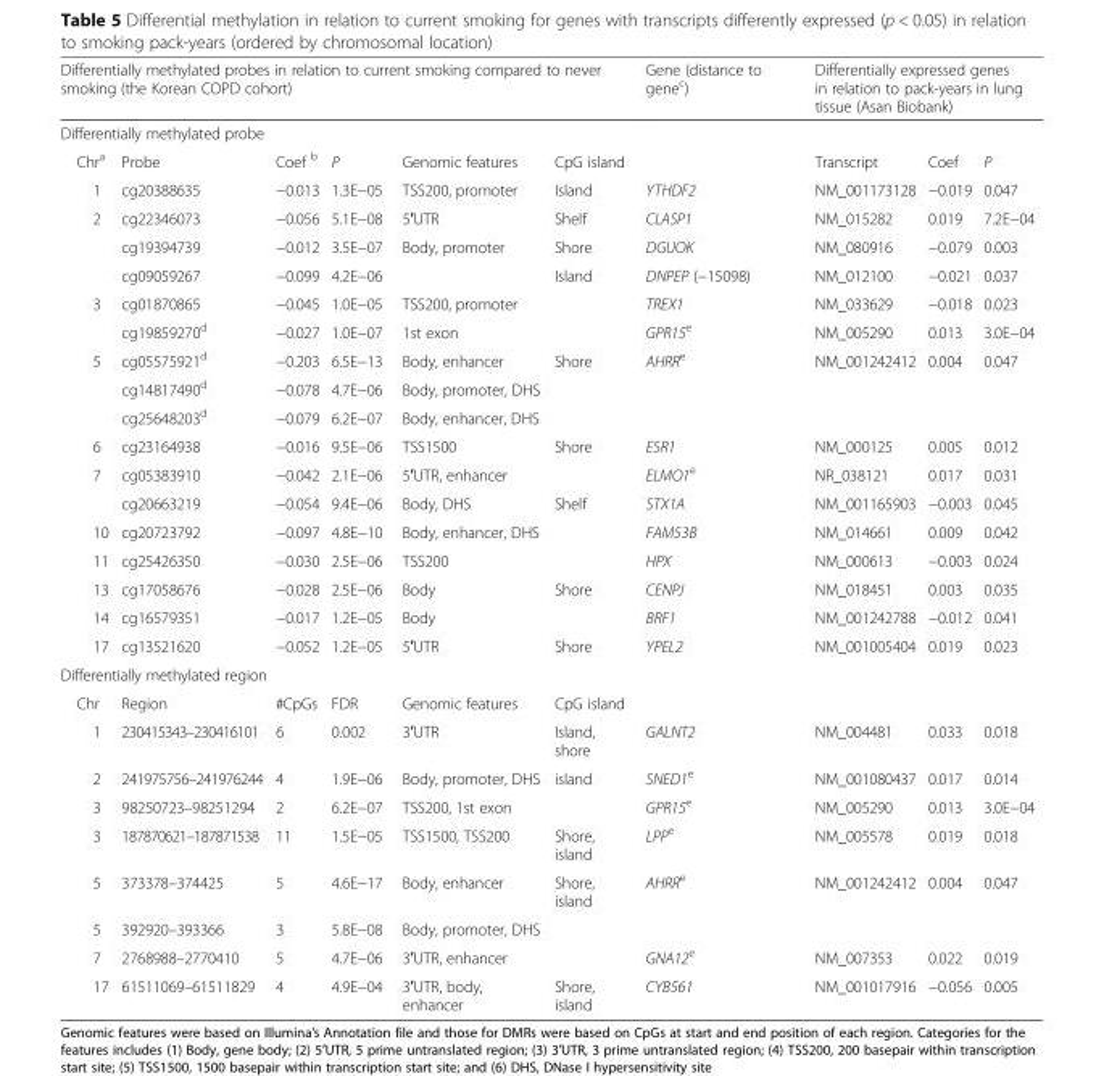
<table><thead><tr><td rowspan="2" colspan="6">Differentially methylated probes in relation to current smoking compared to never smoking (the Korean COPD cohort) Differentially methylated probe</td><td rowspan="3">Gene (distance to gene<sup>c</sup>)</td><td rowspan="2" colspan="3">Differentially expressed genes in relation to pack-years in lung tissue (Asan Biobank)</td></tr><tr></tr><tr><td>Chr<sup>a</sup></td><td>Probe</td><td>Coef <sup>b</sup></td><td>P</td><td>Genomic features</td><td>CpG island</td><td>Transcript</td><td>Coef</td><td>P</td></tr></thead><tbody><tr><td>1</td><td>cg20388635</td><td>−0.013</td><td>1.3E−05</td><td>TSS200, promoter</td><td>Island</td><td>YTHDF2</td><td>NM_001173128</td><td>−0.019</td><td>0.047</td></tr><tr><td rowspan="3">2</td><td>cg22346073</td><td>−0.056</td><td>5.1E−08</td><td>5′UTR</td><td>Shelf</td><td>CLASP1</td><td>NM_015282</td><td>0.019</td><td>7.2E−04</td></tr><tr><td>cg19394739</td><td>−0.012</td><td>3.5E−07</td><td>Body, promoter</td><td>Shore</td><td>DGUOK</td><td>NM_080916</td><td>−0.079</td><td>0.003</td></tr><tr><td>cg09059267</td><td>−0.099</td><td>4.2E−06</td><td></td><td>Island</td><td>DNPEP (−15098)</td><td>NM_012100</td><td>−0.021</td><td>0.037</td></tr><tr><td rowspan="2">3</td><td>cg01870865</td><td>−0.045</td><td>1.0E−05</td><td>TSS200, promoter</td><td></td><td>TREX1</td><td>NM_033629</td><td>−0.018</td><td>0.023</td></tr><tr><td>cg19859270<sup>d</sup></td><td>−0.027</td><td>1.0E−07</td><td>1st exon</td><td></td><td>GPR15<sup>e</sup></td><td>NM_005290</td><td>0.013</td><td>3.0E−04</td></tr><tr><td rowspan="3">5</td><td>cg05575921<sup>d</sup></td><td>−0.203</td><td>6.5E−13</td><td>Body, enhancer</td><td>Shore</td><td rowspan="3">AHRR<sup>e</sup></td><td rowspan="3">NM_001242412</td><td rowspan="3">0.004</td><td rowspan="3">0.047</td></tr><tr><td>cg14817490<sup>d</sup></td><td>−0.078</td><td>4.7E−06</td><td>Body, promoter, DHS</td><td></td></tr><tr><td>cg25648203<sup>d</sup></td><td>−0.079</td><td>6.2E−07</td><td>Body, enhancer, DHS</td><td></td></tr><tr><td>6</td><td>cg23164938</td><td>−0.016</td><td>9.5E−06</td><td>TSS1500</td><td>Shore</td><td>ESR1</td><td>NM_000125</td><td>0.005</td><td>0.012</td></tr><tr><td rowspan="2">7</td><td>cg05383910</td><td>−0.042</td><td>2.1E−06</td><td>5′UTR, enhancer</td><td></td><td>ELMO1<sup>e</sup></td><td>NR_038121</td><td>0.017</td><td>0.031</td></tr><tr><td>cg20663219</td><td>−0.054</td><td>9.4E−06</td><td>Body, DHS</td><td>Shelf</td><td>STX1A</td><td>NM_001165903</td><td>−0.003</td><td>0.045</td></tr><tr><td>10</td><td>cg20723792</td><td>−0.097</td><td>4.8E−10</td><td>Body, enhancer, DHS</td><td></td><td>FAM53B</td><td>NM_014661</td><td>0.009</td><td>0.042</td></tr><tr><td>11</td><td>cg25426350</td><td>−0.030</td><td>2.5E−06</td><td>TSS200</td><td></td><td>HPX</td><td>NM_000613</td><td>−0.003</td><td>0.024</td></tr><tr><td>13</td><td>cg17058676</td><td>−0.028</td><td>2.5E−06</td><td>Body</td><td>Shore</td><td>CENPJ</td><td>NM_018451</td><td>0.003</td><td>0.035</td></tr><tr><td>14</td><td>cg16579351</td><td>−0.017</td><td>1.2E−05</td><td>Body</td><td></td><td>BRF1</td><td>NM_001242788</td><td>−0.012</td><td>0.041</td></tr><tr><td>17</td><td>cg13521620</td><td>−0.052</td><td>1.2E−05</td><td>5′UTR</td><td>Shore</td><td>YPEL2</td><td>NM_001005404</td><td>0.019</td><td>0.023</td></tr><tr><td colspan="10">Differentially methylated region</td></tr><tr><td>Chr</td><td>Region</td><td>#CpGs</td><td>FDR</td><td>Genomic features</td><td>CpG island</td><td></td><td></td><td></td><td></td></tr><tr><td>1</td><td>230415343–230416101</td><td>6</td><td>0.002</td><td>3′UTR</td><td>Island, shore</td><td>GALNT2</td><td>NM_004481</td><td>0.033</td><td>0.018</td></tr><tr><td>2</td><td>241975756–241976244</td><td>4</td><td>1.9E−06</td><td>Body, promoter, DHS</td><td>island</td><td>SNED1<sup>e</sup></td><td>NM_001080437</td><td>0.017</td><td>0.014</td></tr><tr><td>3</td><td>98250723–98251294</td><td>2</td><td>6.2E−07</td><td>TSS200, 1st exon</td><td></td><td>GPR15<sup>e</sup></td><td>NM_005290</td><td>0.013</td><td>3.0E−04</td></tr><tr><td>3</td><td>187870621–187871538</td><td>11</td><td>1.5E−05</td><td>TSS1500, TSS200</td><td>Shore, island</td><td>LPP<sup>e</sup></td><td>NM_005578</td><td>0.019</td><td>0.018</td></tr><tr><td>5</td><td>373378–374425</td><td>5</td><td>4.6E−17</td><td>Body, enhancer</td><td>Shore, island</td><td rowspan="2">AHRR<sup>e</sup></td><td rowspan="2">NM_001242412</td><td rowspan="2">0.004</td><td rowspan="2">0.047</td></tr><tr><td>5</td><td>392920–393366</td><td>3</td><td>5.8E−08</td><td>Body, promoter, DHS</td><td></td></tr><tr><td>7</td><td>2768988–2770410</td><td>5</td><td>4.7E−06</td><td>3′UTR, enhancer</td><td></td><td>GNA12<sup>e</sup></td><td>NM_007353</td><td>0.022</td><td>0.019</td></tr><tr><td>17</td><td>61511069–61511829</td><td>4</td><td>4.9E−04</td><td>3′UTR, body, enhancer</td><td>Shore, island</td><td>CYB561</td><td>NM_001017916</td><td>−0.056</td><td>0.005</td></tr></tbody></table>